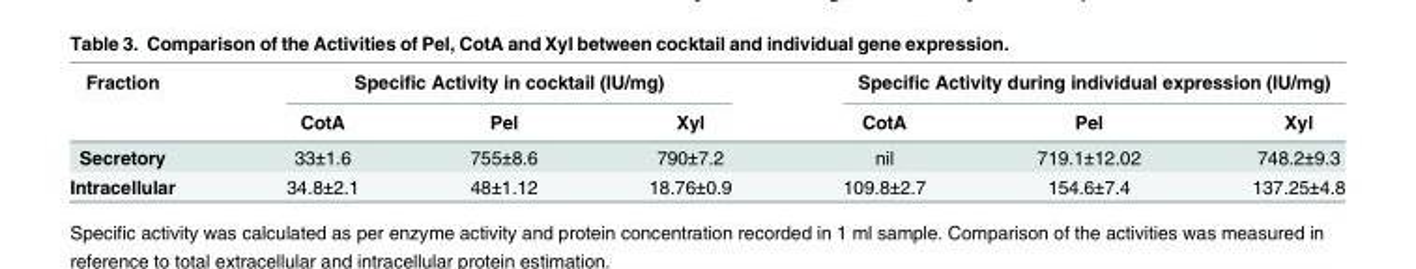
<table><thead><tr><td rowspan="2">Fraction</td><td colspan="3">Specific Activity in cocktail (IU/mg)</td><td colspan="3">Specific Activity during individual expression (IU/mg)</td></tr><tr><td>CotA</td><td>Pel</td><td>Xyl</td><td>CotA</td><td>Pel</td><td>Xyl</td></tr></thead><tbody><tr><td>Secretory</td><td>33±1.6</td><td>755±8.6</td><td>790±7.2</td><td>nil</td><td>719.1±12.02</td><td>748.2±9.3</td></tr><tr><td>Intracellular</td><td>34.8±2.1</td><td>48±1.12</td><td>18.76±0.9</td><td>109.8±2.7</td><td>154.6±7.4</td><td>137.25±4.8</td></tr></tbody></table>